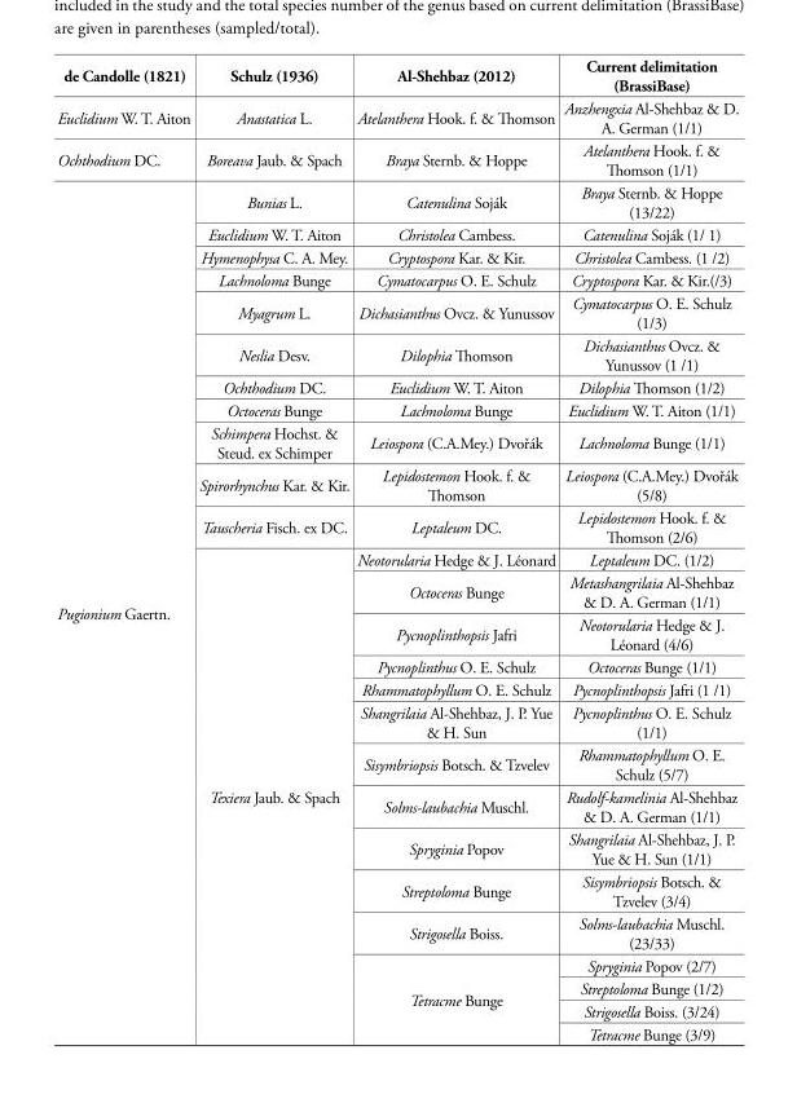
<table><tbody><tr><td>de Candolle (1821)</td><td>Schulz (1936)</td><td>Al-Shehbaz (2012)</td><td>Current delimitation (BrassiBase)</td></tr><tr><td>Euclidium W. T. Aiton</td><td>Anastatica L.</td><td>Atelanthera Hook. f. &amp; Thomson</td><td>Anzhengxia Al-Shehbaz &amp; D. A. German (1/1)</td></tr><tr><td>Ochthodium DC.</td><td>Boreava Jaub. &amp; Spach</td><td>Braya Sternb. &amp; Hoppe</td><td>Atelanthera Hook. f. &amp; Thomson (1/1)</td></tr><tr><td rowspan="26">Pugionium Gaertn.</td><td>Bunias L.</td><td>Catenulina Soják</td><td>Braya Sternb. &amp; Hoppe (13/22)</td></tr><tr><td>Euclidium W. T. Aiton</td><td>Christolea Cambess.</td><td>Catenulina Soják (1/ 1)</td></tr><tr><td>Hymenophysa C. A. Mey.</td><td>Cryptospora Kar. &amp; Kir.</td><td>Christolea Cambess. (1 /2)</td></tr><tr><td>Lachnoloma Bunge</td><td>Cymatocarpus O. E. Schulz</td><td>Cryptospora Kar. &amp; Kir.(/3)</td></tr><tr><td>Myagrum L.</td><td>Dichasianthus Ovcz. &amp; Yunussov</td><td>Cymatocarpus O. E. Schulz (1/3)</td></tr><tr><td>Neslia Desv.</td><td>Dilophia Thomson</td><td>Dichasianthus Ovcz. &amp; Yunussov (1 /1)</td></tr><tr><td>Ochthodium DC.</td><td>Euclidium W. T. Aiton</td><td>Dilophia Thomson (1/2)</td></tr><tr><td>Octoceras Bunge</td><td>Lachnoloma Bunge</td><td>Euclidium W. T. Aiton (1/1)</td></tr><tr><td>Schimpera Hochst. &amp; Steud. ex Schimper</td><td>Leiospora (C.A.Mey.) Dvořák</td><td>Lachnoloma Bunge (1/1)</td></tr><tr><td>Spirorhynchus Kar. &amp; Kir.</td><td>Lepidostemon Hook. f. &amp; Thomson</td><td>Leiospora (C.A.Mey.) Dvořák (5/8)</td></tr><tr><td>Tauscheria Fisch. ex DC.</td><td>Leptaleum DC.</td><td>Lepidostemon Hook. f. &amp; Thomson (2/6)</td></tr><tr><td rowspan="15">Texiera Jaub. &amp; Spach</td><td>Neotorularia Hedge &amp; J. Léonard</td><td>Leptaleum DC. (1/2)</td></tr><tr><td>Octoceras Bunge</td><td>Metashangrilaia Al-Shehbaz &amp; D. A. German (1/1)</td></tr><tr><td>Pycnoplinthopsis Jafri</td><td>Neotorularia Hedge &amp; J. Léonard (4/6)</td></tr><tr><td>Pycnoplinthus O. E. Schulz</td><td>Octoceras Bunge (1/1)</td></tr><tr><td>Rhammatophyllum O. E. Schulz</td><td>Pycnoplinthopsis Jafri (1 /1)</td></tr><tr><td>Shangrilaia Al-Shehbaz, J. P. Yue &amp; H. Sun</td><td>Pycnoplinthus O. E. Schulz (1/1)</td></tr><tr><td>Sisymbriopsis Botsch. &amp; Tzvelev</td><td>Rhammatophyllum O. E. Schulz (5/7)</td></tr><tr><td>Solms-laubachia Muschl.</td><td>Rudolf-kamelinia Al-Shehbaz &amp; D. A. German (1/1)</td></tr><tr><td>Spryginia Popov</td><td>Shangrilaia Al-Shehbaz, J. P. Yue &amp; H. Sun (1/1)</td></tr><tr><td>Streptoloma Bunge</td><td>Sisymbriopsis Botsch. &amp; Tzvelev (3/4)</td></tr><tr><td>Strigosella Boiss.</td><td>Solms-laubachia Muschl. (23/33)</td></tr><tr><td rowspan="4">Tetracme Bunge</td><td>Spryginia Popov (2/7)</td></tr><tr><td>Streptoloma Bunge (1/2)</td></tr><tr><td>Strigosella Boiss. (3/24)</td></tr><tr><td>Tetracme Bunge (3/9)</td></tr></tbody></table>